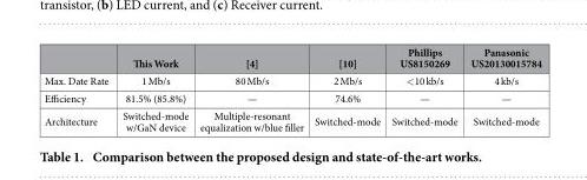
<table><thead><tr><td></td><td>This Work</td><td>[4]</td><td>[10]</td><td>Phillips US8150269</td><td>Panasonic US20130015784</td></tr></thead><tbody><tr><td>Max. Date Rate</td><td>1 Mb/s</td><td>80 Mb/s</td><td>2 Mb/s</td><td>&lt; 10 kb/s</td><td>4 kb/s</td></tr><tr><td>Efficiency</td><td>81.5% (85.8%)</td><td>—</td><td>74.6%</td><td>—</td><td>—</td></tr><tr><td>Architecture</td><td>Switched-mode w/GaN device</td><td>Multiple-resonant equalization w/blue filler</td><td>Switched-mode</td><td>Switched-mode</td><td>Switched-mode</td></tr></tbody></table>